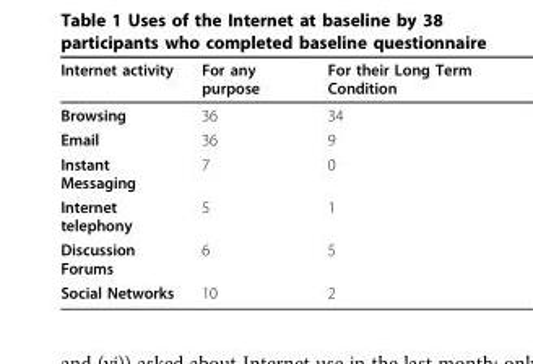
<table><thead><tr><td>Internet activity</td><td>For any purpose</td><td>For their Long Term Condition</td></tr></thead><tbody><tr><td>Browsing</td><td>36</td><td>34</td></tr><tr><td>Email</td><td>36</td><td>9</td></tr><tr><td>Instant Messaging</td><td>7</td><td>0</td></tr><tr><td>Internet telephony</td><td>5</td><td>1</td></tr><tr><td>Discussion Forums</td><td>6</td><td>5</td></tr><tr><td>Social Networks</td><td>10</td><td>2</td></tr></tbody></table>